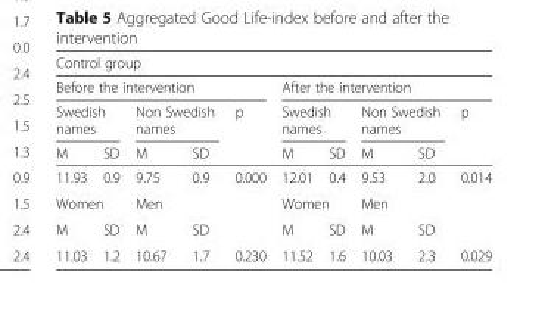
<table><thead><tr><td colspan="10">Control group</td></tr><tr><td colspan="5">Before the intervention</td><td colspan="5">After the intervention</td></tr><tr><td colspan="2">Swedish names</td><td colspan="2">Non Swedish names</td><td rowspan="2">p</td><td colspan="2">Swedish names</td><td colspan="2">Non Swedish names</td><td rowspan="2">p</td></tr><tr><td>M</td><td>SD</td><td>M</td><td>SD</td><td>M</td><td>SD</td><td>M</td><td>SD</td></tr></thead><tbody><tr><td>11.93</td><td>0.9</td><td>9.75</td><td>0.9</td><td>0.000</td><td>12.01</td><td>0.4</td><td>9.53</td><td>2.0</td><td>0.014</td></tr><tr><td colspan="2">Women</td><td colspan="2">Men</td><td></td><td colspan="2">Women</td><td colspan="2">Men</td><td></td></tr><tr><td>M</td><td>SD</td><td>M</td><td>SD</td><td></td><td>M</td><td>SD</td><td>M</td><td>SD</td><td></td></tr><tr><td>11.03</td><td>1.2</td><td>10.67</td><td>1.7</td><td>0.230</td><td>11.52</td><td>1.6</td><td>10.03</td><td>2.3</td><td>0.029</td></tr></tbody></table>